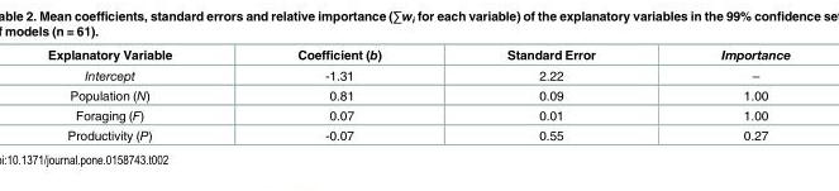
<table><thead><tr><td>Explanatory Variable</td><td>Coefficient (b)</td><td>Standard Error</td><td>Importance</td></tr></thead><tbody><tr><td>Intercept</td><td>-1.31</td><td>2.22</td><td>–</td></tr><tr><td>Population (N)</td><td>0.81</td><td>0.09</td><td>1.00</td></tr><tr><td>Foraging (F)</td><td>0.07</td><td>0.01</td><td>1.00</td></tr><tr><td>Productivity (P)</td><td>-0.07</td><td>0.55</td><td>0.27</td></tr></tbody></table>